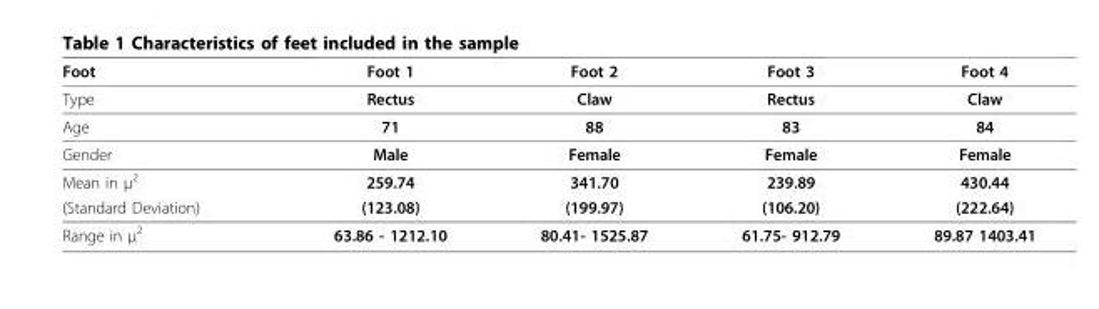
<table><thead><tr><td>Foot</td><td>Foot 1</td><td>Foot 2</td><td>Foot 3</td><td>Foot 4</td></tr></thead><tbody><tr><td>Type</td><td>Rectus</td><td>Claw</td><td>Rectus</td><td>Claw</td></tr><tr><td>Age</td><td>71</td><td>88</td><td>83</td><td>84</td></tr><tr><td>Gender</td><td>Male</td><td>Female</td><td>Female</td><td>Female</td></tr><tr><td>Mean in μ<sup>2</sup></td><td>259.74</td><td>341.70</td><td>239.89</td><td>430.44</td></tr><tr><td>(Standard Deviation)</td><td>(123.08)</td><td>(199.97)</td><td>(106.20)</td><td>(222.64)</td></tr><tr><td>Range in μ<sup>2</sup></td><td>63.86 - 1212.10</td><td>80.41- 1525.87</td><td>61.75- 912.79</td><td>89.87 1403.41</td></tr></tbody></table>